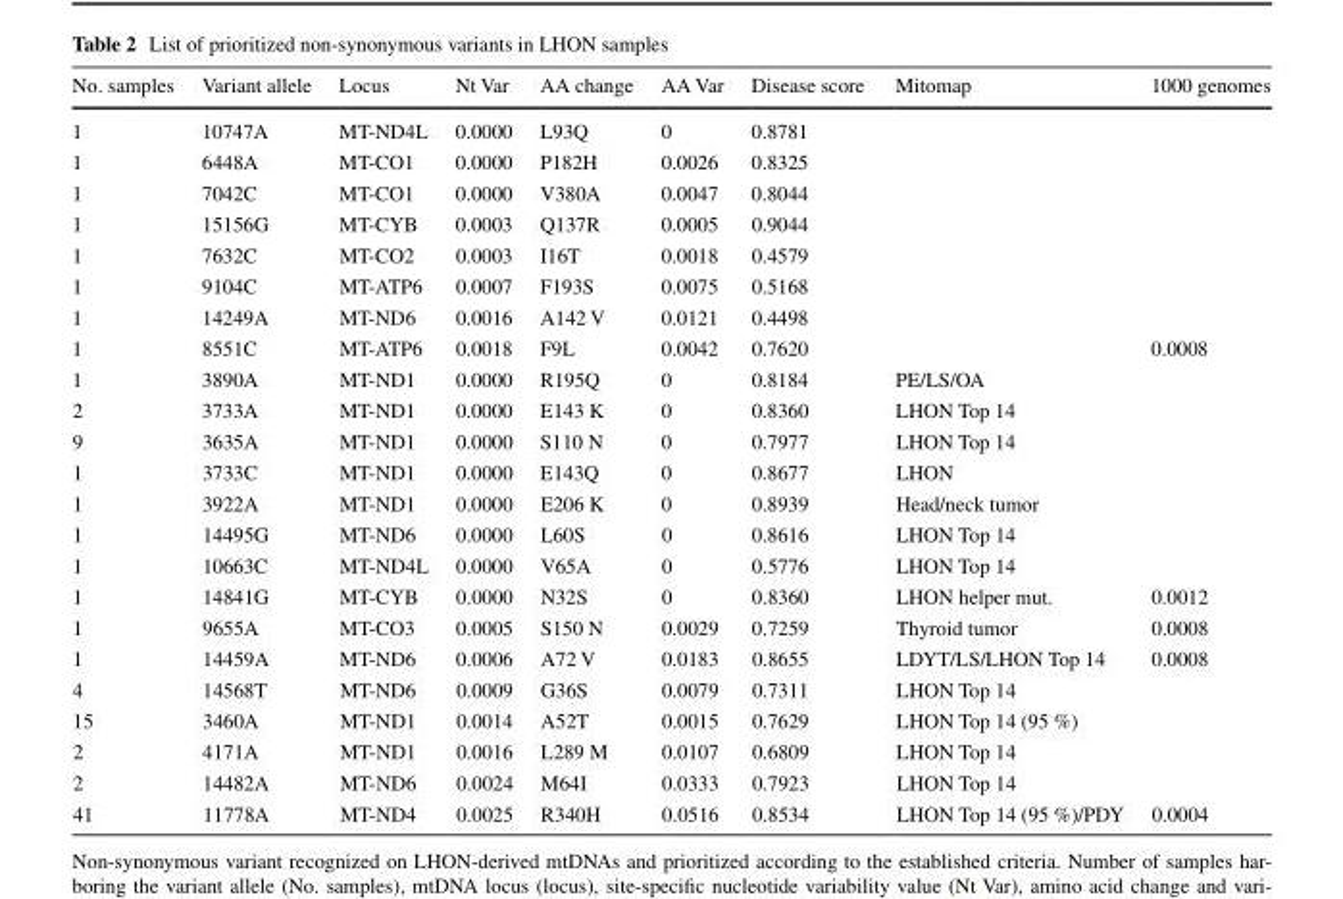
<table><thead><tr><td>No. samples</td><td>Variant allele</td><td>Locus</td><td>Nt Var</td><td>AA change</td><td>AA Var</td><td>Disease score</td><td>Mitomap</td><td>1000 genomes</td></tr></thead><tbody><tr><td>1</td><td>10747A</td><td>MT-ND4L</td><td>0.0000</td><td>L93Q</td><td>0</td><td>0.8781</td><td></td><td></td></tr><tr><td>1</td><td>6448A</td><td>MT-CO1</td><td>0.0000</td><td>P182H</td><td>0.0026</td><td>0.8325</td><td></td><td></td></tr><tr><td>1</td><td>7042C</td><td>MT-CO1</td><td>0.0000</td><td>V380A</td><td>0.0047</td><td>0.8044</td><td></td><td></td></tr><tr><td>1</td><td>15156G</td><td>MT-CYB</td><td>0.0003</td><td>Q137R</td><td>0.0005</td><td>0.9044</td><td></td><td></td></tr><tr><td>1</td><td>7632C</td><td>MT-CO2</td><td>0.0003</td><td>I16T</td><td>0.0018</td><td>0.4579</td><td></td><td></td></tr><tr><td>1</td><td>9104C</td><td>MT-ATP6</td><td>0.0007</td><td>F193S</td><td>0.0075</td><td>0.5168</td><td></td><td></td></tr><tr><td>1</td><td>14249A</td><td>MT-ND6</td><td>0.0016</td><td>A142 V</td><td>0.0121</td><td>0.4498</td><td></td><td></td></tr><tr><td>1</td><td>8551C</td><td>MT-ATP6</td><td>0.0018</td><td>F9L</td><td>0.0042</td><td>0.7620</td><td></td><td>0.0008</td></tr><tr><td>1</td><td>3890A</td><td>MT-ND1</td><td>0.0000</td><td>R195Q</td><td>0</td><td>0.8184</td><td>PE/LS/OA</td><td></td></tr><tr><td>2</td><td>3733A</td><td>MT-ND1</td><td>0.0000</td><td>E143 K</td><td>0</td><td>0.8360</td><td>LHON Top 14</td><td></td></tr><tr><td>9</td><td>3635A</td><td>MT-ND1</td><td>0.0000</td><td>S110 N</td><td>0</td><td>0.7977</td><td>LHON Top 14</td><td></td></tr><tr><td>1</td><td>3733C</td><td>MT-ND1</td><td>0.0000</td><td>E143Q</td><td>0</td><td>0.8677</td><td>LHON</td><td></td></tr><tr><td>1</td><td>3922A</td><td>MT-ND1</td><td>0.0000</td><td>E206 K</td><td>0</td><td>0.8939</td><td>Head/neck tumor</td><td></td></tr><tr><td>1</td><td>14495G</td><td>MT-ND6</td><td>0.0000</td><td>L60S</td><td>0</td><td>0.8616</td><td>LHON Top 14</td><td></td></tr><tr><td>1</td><td>10663C</td><td>MT-ND4L</td><td>0.0000</td><td>V65A</td><td>0</td><td>0.5776</td><td>LHON Top 14</td><td></td></tr><tr><td>1</td><td>14841G</td><td>MT-CYB</td><td>0.0000</td><td>N32S</td><td>0</td><td>0.8360</td><td>LHON helper mut.</td><td>0.0012</td></tr><tr><td>1</td><td>9655A</td><td>MT-CO3</td><td>0.0005</td><td>S150 N</td><td>0.0029</td><td>0.7259</td><td>Thyroid tumor</td><td>0.0008</td></tr><tr><td>1</td><td>14459A</td><td>MT-ND6</td><td>0.0006</td><td>A72 V</td><td>0.0183</td><td>0.8655</td><td>LDYT/LS/LHON Top 14</td><td>0.0008</td></tr><tr><td>4</td><td>14568T</td><td>MT-ND6</td><td>0.0009</td><td>G36S</td><td>0.0079</td><td>0.7311</td><td>LHON Top 14</td><td></td></tr><tr><td>15</td><td>3460A</td><td>MT-ND1</td><td>0.0014</td><td>A52T</td><td>0.0015</td><td>0.7629</td><td>LHON Top 14 (95 %)</td><td></td></tr><tr><td>2</td><td>4171A</td><td>MT-ND1</td><td>0.0016</td><td>L289 M</td><td>0.0107</td><td>0.6809</td><td>LHON Top 14</td><td></td></tr><tr><td>2</td><td>14482A</td><td>MT-ND6</td><td>0.0024</td><td>M64I</td><td>0.0333</td><td>0.7923</td><td>LHON Top 14</td><td></td></tr><tr><td>41</td><td>11778A</td><td>MT-ND4</td><td>0.0025</td><td>R340H</td><td>0.0516</td><td>0.8534</td><td>LHON Top 14 (95 %)/PDY</td><td>0.0004</td></tr></tbody></table>